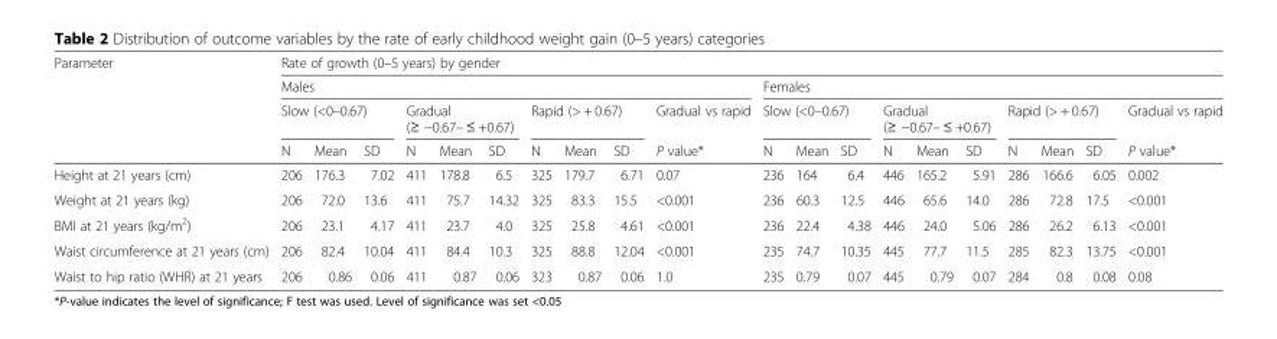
<table><thead><tr><td rowspan="4">Parameter</td><td colspan="20">Rate of growth (0–5 years) by gender</td></tr><tr><td colspan="10">Males</td><td colspan="10">Females</td></tr><tr><td colspan="3">Slow (&lt;0–0.67)</td><td colspan="3">Gradual (≥ −0.67– ≤ +0.67)</td><td colspan="3">Rapid (&gt; + 0.67)</td><td rowspan="2">Gradual vs rapid P value*</td><td colspan="3">Slow (&lt;0–0.67)</td><td colspan="3">Gradual (≥ −0.67– ≤ +0.67)</td><td colspan="3">Rapid (&gt; + 0.67)</td><td rowspan="2">Gradual vs rapid P value*</td></tr><tr><td>N</td><td>Mean</td><td>SD</td><td>N</td><td>Mean</td><td>SD</td><td>N</td><td>Mean</td><td>SD</td><td>N</td><td>Mean</td><td>SD</td><td>N</td><td>Mean</td><td>SD</td><td>N</td><td>Mean</td><td>SD</td></tr></thead><tbody><tr><td>Height at 21 years (cm)</td><td>206</td><td>176.3</td><td>7.02</td><td>411</td><td>178.8</td><td>6.5</td><td>325</td><td>179.7</td><td>6.71</td><td>0.07</td><td>236</td><td>164</td><td>6.4</td><td>446</td><td>165.2</td><td>5.91</td><td>286</td><td>166.6</td><td>6.05</td><td>0.002</td></tr><tr><td>Weight at 21 years (kg)</td><td>206</td><td>72.0</td><td>13.6</td><td>411</td><td>75.7</td><td>14.32</td><td>325</td><td>83.3</td><td>15.5</td><td>&lt;0.001</td><td>236</td><td>60.3</td><td>12.5</td><td>446</td><td>65.6</td><td>14.0</td><td>286</td><td>72.8</td><td>17.5</td><td>&lt;0.001</td></tr><tr><td>BMI at 21 years (kg/m<sup>2</sup>)</td><td>206</td><td>23.1</td><td>4.17</td><td>411</td><td>23.7</td><td>4.0</td><td>325</td><td>25.8</td><td>4.61</td><td>&lt;0.001</td><td>236</td><td>22.4</td><td>4.38</td><td>446</td><td>24.0</td><td>5.06</td><td>286</td><td>26.2</td><td>6.13</td><td>&lt;0.001</td></tr><tr><td>Waist circumference at 21 years (cm)</td><td>206</td><td>82.4</td><td>10.04</td><td>411</td><td>84.4</td><td>10.3</td><td>325</td><td>88.8</td><td>12.04</td><td>&lt;0.001</td><td>235</td><td>74.7</td><td>10.35</td><td>445</td><td>77.7</td><td>11.5</td><td>285</td><td>82.3</td><td>13.75</td><td>&lt;0.001</td></tr><tr><td>Waist to hip ratio (WHR) at 21 years</td><td>206</td><td>0.86</td><td>0.06</td><td>411</td><td>0.87</td><td>0.06</td><td>323</td><td>0.87</td><td>0.06</td><td>1.0</td><td>235</td><td>0.79</td><td>0.07</td><td>445</td><td>0.79</td><td>0.07</td><td>284</td><td>0.8</td><td>0.08</td><td>0.08</td></tr></tbody></table>